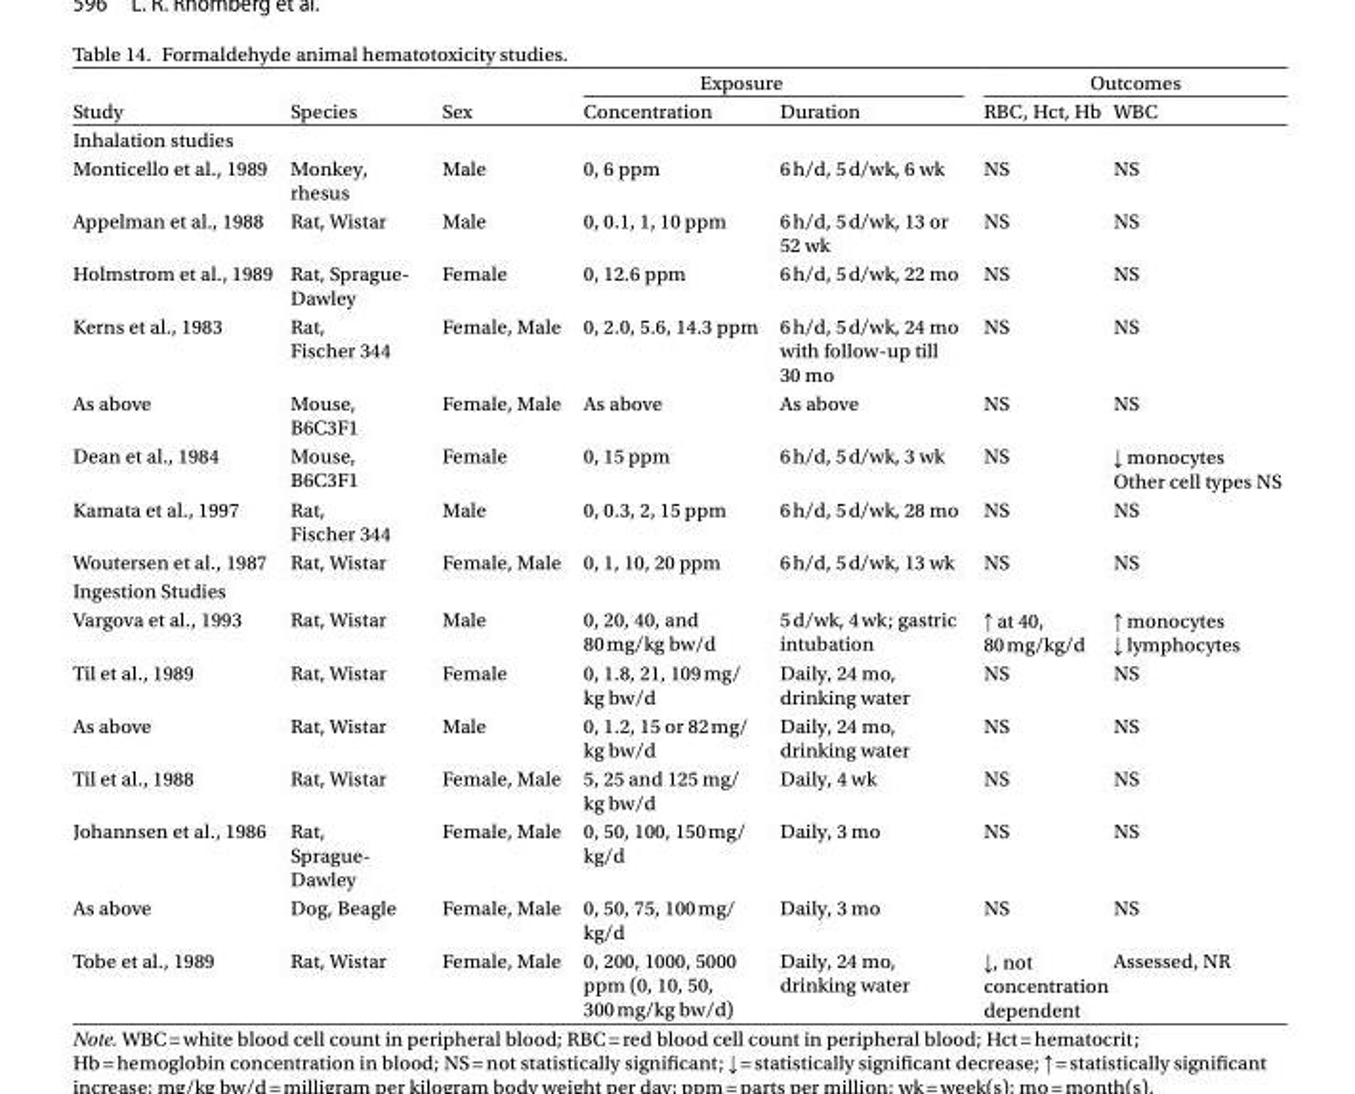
<table><thead><tr><td rowspan="2">Study</td><td rowspan="2">Species</td><td rowspan="2">Sex</td><td colspan="2">Exposure</td><td colspan="2">Outcomes</td></tr><tr><td>Concentration</td><td>Duration</td><td>RBC, Hct, Hb</td><td>WBC</td></tr></thead><tbody><tr><td colspan="7">Inhalation studies</td></tr><tr><td>Monticello et al., 1989</td><td>Monkey, rhesus</td><td>Male</td><td>0, 6 ppm</td><td>6 h/d, 5 d/wk, 6 wk</td><td>NS</td><td>NS</td></tr><tr><td>Appelman et al., 1988</td><td>Rat, Wistar</td><td>Male</td><td>0, 0.1, 1, 10 ppm</td><td>6 h/d, 5 d/wk, 13 or 52 wk</td><td>NS</td><td>NS</td></tr><tr><td>Holmstrom et al., 1989</td><td>Rat, Sprague- Dawley</td><td>Female</td><td>0, 12.6 ppm</td><td>6 h/d, 5 d/wk, 22 mo</td><td>NS</td><td>NS</td></tr><tr><td>Kerns et al., 1983</td><td>Rat, Fischer 344</td><td>Female, Male</td><td>0, 2.0, 5.6, 14.3 ppm</td><td>6 h/d, 5 d/wk, 24 mo with follow-up till 30 mo</td><td>NS</td><td>NS</td></tr><tr><td>As above</td><td>Mouse, B6C3F1</td><td>Female, Male</td><td>As above</td><td>As above</td><td>NS</td><td>NS</td></tr><tr><td>Dean et al., 1984</td><td>Mouse, B6C3F1</td><td>Female</td><td>0, 15 ppm</td><td>6 h/d, 5 d/wk, 3 wk</td><td>NS</td><td>↓ monocytes Other cell types NS</td></tr><tr><td>Kamata et al., 1997</td><td>Rat, Fischer 344</td><td>Male</td><td>0, 0.3, 2, 15 ppm</td><td>6 h/d, 5 d/wk, 28 mo</td><td>NS</td><td>NS</td></tr><tr><td>Woutersen et al., 1987</td><td>Rat, Wistar</td><td>Female, Male</td><td>0, 1, 10, 20 ppm</td><td>6 h/d, 5 d/wk, 13 wk</td><td>NS</td><td>NS</td></tr><tr><td colspan="7">Ingestion Studies</td></tr><tr><td>Vargova et al., 1993</td><td>Rat, Wistar</td><td>Male</td><td>0, 20, 40, and 80 mg/kg bw/d</td><td>5 d/wk, 4 wk; gastric intubation</td><td>↑ at 40, 80 mg/kg/d</td><td>↑ monocytes ↓ lymphocytes</td></tr><tr><td>Til et al., 1989</td><td>Rat, Wistar</td><td>Female</td><td>0, 1.8, 21, 109 mg/ kg bw/d</td><td>Daily, 24 mo, drinking water</td><td>NS</td><td>NS</td></tr><tr><td>As above</td><td>Rat, Wistar</td><td>Male</td><td>0, 1.2, 15 or 82 mg/ kg bw/d</td><td>Daily, 24 mo, drinking water</td><td>NS</td><td>NS</td></tr><tr><td>Til et al., 1988</td><td>Rat, Wistar</td><td>Female, Male</td><td>5, 25 and 125 mg/ kg bw/d</td><td>Daily, 4 wk</td><td>NS</td><td>NS</td></tr><tr><td>Johannsen et al., 1986</td><td>Rat, Sprague- Dawley</td><td>Female, Male</td><td>0, 50, 100, 150 mg/ kg/d</td><td>Daily, 3 mo</td><td>NS</td><td>NS</td></tr><tr><td>As above</td><td>Dog, Beagle</td><td>Female, Male</td><td>0, 50, 75, 100 mg/ kg/d</td><td>Daily, 3 mo</td><td>NS</td><td>NS</td></tr><tr><td>Tobe et al., 1989</td><td>Rat, Wistar</td><td>Female, Male</td><td>0, 200, 1000, 5000 ppm (0, 10, 50, 300 mg/kg bw/d)</td><td>Daily, 24 mo, drinking water</td><td>↓, not concentration dependent</td><td>Assessed, NR</td></tr></tbody></table>